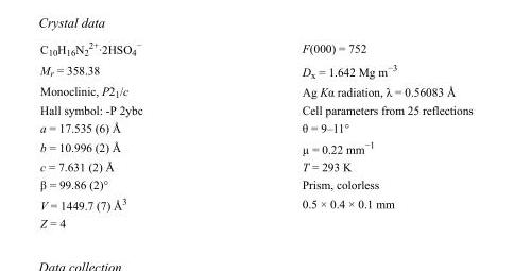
<table><tbody><tr><td>C<sub>10</sub>H<sub>16</sub>N<sub>2</sub> <sup>2+</sup>·2HSO<sub>4</sub> <sup>−</sup></td><td>F(000) = 752</td></tr><tr><td>M<sub>r</sub> = 358.38</td><td>D<sub>x</sub> = 1.642 Mg m<sup>−3</sup></td></tr><tr><td>Monoclinic, P2<sub>1</sub>/c</td><td>Ag Kα radiation, λ = 0.56083 Å</td></tr><tr><td>Hall symbol: -P 2ybc</td><td>Cell parameters from 25 reflections</td></tr><tr><td>a = 17.535 (6) Å</td><td>θ = 9–11°</td></tr><tr><td>b = 10.996 (2) Å</td><td>µ = 0.22 mm<sup>−1</sup></td></tr><tr><td>c = 7.631 (2) Å</td><td>T = 293 K</td></tr><tr><td>β = 99.86 (2)°</td><td>Prism, colorless</td></tr><tr><td>V = 1449.7 (7) Å<sup>3</sup></td><td>0.5 × 0.4 × 0.1 mm</td></tr><tr><td>Z = 4</td><td></td></tr></tbody></table>